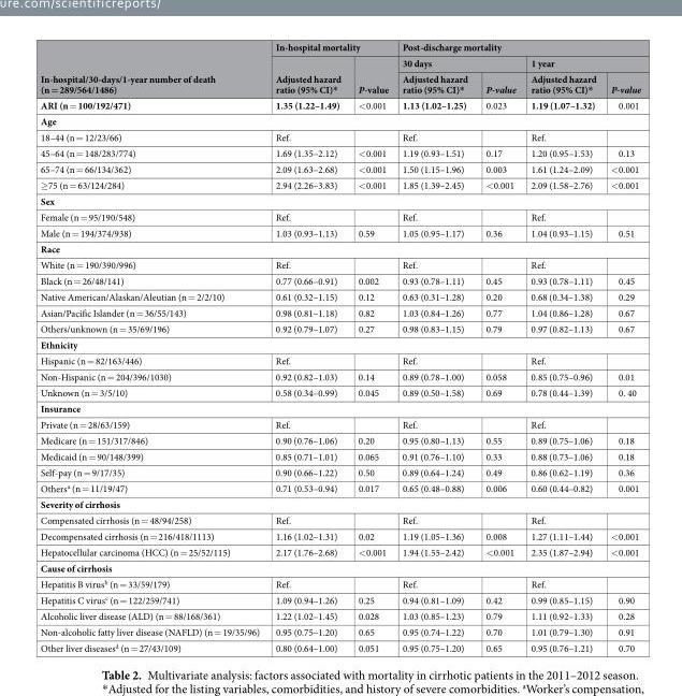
<table><thead><tr><td rowspan="3">In-hospital/30-days/1-year number of death (n = 289/564/1486)</td><td colspan="2">In-hospital mortality</td><td colspan="4">Post-discharge mortality</td></tr><tr><td rowspan="2">Adjusted hazard ratio (95% CI)*</td><td rowspan="2">P-value</td><td colspan="2">30 days</td><td colspan="2">1 year</td></tr><tr><td>Adjusted hazard ratio (95% CI)*</td><td>P-value</td><td>Adjusted hazard ratio (95% CI)*</td><td>P-value</td></tr></thead><tbody><tr><td>ARI (n = 100/192/471)</td><td>1.35 (1.22–1.49)</td><td>&lt;0.001</td><td>1.13 (1.02–1.25)</td><td>0.023</td><td>1.19 (1.07–1.32)</td><td>0.001</td></tr><tr><td colspan="7">Age</td></tr><tr><td>18–44 (n = 12/23/66)</td><td>Ref.</td><td></td><td>Ref.</td><td></td><td>Ref.</td><td></td></tr><tr><td>45–64 (n = 148/283/774)</td><td>1.69 (1.35–2.12)</td><td>&lt;0.001</td><td>1.19 (0.93–1.51)</td><td>0.17</td><td>1.20 (0.95–1.53)</td><td>0.13</td></tr><tr><td>65–74 (n = 66/134/362)</td><td>2.09 (1.63–2.68)</td><td>&lt;0.001</td><td>1.50 (1.15–1.96)</td><td>0.003</td><td>1.61 (1.24–2.09)</td><td>&lt;0.001</td></tr><tr><td>≥75 (n = 63/124/284)</td><td>2.94 (2.26–3.83)</td><td>&lt;0.001</td><td>1.85 (1.39–2.45)</td><td>&lt;0.001</td><td>2.09 (1.58–2.76)</td><td>&lt;0.001</td></tr><tr><td colspan="7">Sex</td></tr><tr><td>Female (n = 95/190/548)</td><td>Ref.</td><td></td><td>Ref.</td><td></td><td>Ref.</td><td></td></tr><tr><td>Male (n = 194/374/938)</td><td>1.03 (0.93–1.13)</td><td>0.59</td><td>1.05 (0.95–1.17)</td><td>0.36</td><td>1.04 (0.93–1.15)</td><td>0.51</td></tr><tr><td colspan="7">Race</td></tr><tr><td>White (n = 190/390/996)</td><td>Ref.</td><td></td><td>Ref.</td><td></td><td>Ref.</td><td></td></tr><tr><td>Black (n = 26/48/141)</td><td>0.77 (0.66–0.91)</td><td>0.002</td><td>0.93 (0.78–1.11)</td><td>0.45</td><td>0.93 (0.78–1.11)</td><td>0.45</td></tr><tr><td>Native American/Alaskan/Aleutian (n = 2/2/10)</td><td>0.61 (0.32–1.15)</td><td>0.12</td><td>0.63 (0.31–1.28)</td><td>0.20</td><td>0.68 (0.34–1.38)</td><td>0.29</td></tr><tr><td>Asian/Pacific Islander (n = 36/55/143)</td><td>0.98 (0.81–1.18)</td><td>0.82</td><td>1.03 (0.84–1.26)</td><td>0.77</td><td>1.04 (0.86–1.28)</td><td>0.67</td></tr><tr><td>Others/unknown (n = 35/69/196)</td><td>0.92 (0.79–1.07)</td><td>0.27</td><td>0.98 (0.83–1.15)</td><td>0.79</td><td>0.97 (0.82–1.13)</td><td>0.67</td></tr><tr><td colspan="7">Ethnicity</td></tr><tr><td>Hispanic (n = 82/163/446)</td><td>Ref.</td><td></td><td>Ref.</td><td></td><td>Ref.</td><td></td></tr><tr><td>Non-Hispanic (n = 204/396/1030)</td><td>0.92 (0.82–1.03)</td><td>0.14</td><td>0.89 (0.78–1.00)</td><td>0.058</td><td>0.85 (0.75–0.96)</td><td>0.01</td></tr><tr><td>Unknown (n = 3/5/10)</td><td>0.58 (0.34–0.99)</td><td>0.045</td><td>0.89 (0.50–1.58)</td><td>0.69</td><td>0.78 (0.44–1.39)</td><td>0. 40</td></tr><tr><td colspan="7">Insurance</td></tr><tr><td>Private (n = 28/63/159)</td><td>Ref.</td><td></td><td>Ref.</td><td></td><td>Ref.</td><td></td></tr><tr><td>Medicare (n = 151/317/846)</td><td>0.90 (0.76–1.06)</td><td>0.20</td><td>0.95 (0.80–1.13)</td><td>0.55</td><td>0.89 (0.75–1.06)</td><td>0.18</td></tr><tr><td>Medicaid (n = 90/148/399)</td><td>0.85 (0.71–1.01)</td><td>0.065</td><td>0.91 (0.76–1.10)</td><td>0.33</td><td>0.88 (0.73–1.06)</td><td>0.18</td></tr><tr><td>Self-pay (n = 9/17/35)</td><td>0.90 (0.66–1.22)</td><td>0.50</td><td>0.89 (0.64–1.24)</td><td>0.49</td><td>0.86 (0.62–1.19)</td><td>0.36</td></tr><tr><td>Others<sup>a</sup> (n = 11/19/47)</td><td>0.71 (0.53–0.94)</td><td>0.017</td><td>0.65 (0.48–0.88)</td><td>0.006</td><td>0.60 (0.44–0.82)</td><td>0.001</td></tr><tr><td colspan="7">Severity of cirrhosis</td></tr><tr><td>Compensated cirrhosis (n = 48/94/258)</td><td>Ref.</td><td></td><td>Ref.</td><td></td><td>Ref.</td><td></td></tr><tr><td>Decompensated cirrhosis (n = 216/418/1113)</td><td>1.16 (1.02–1.31)</td><td>0.02</td><td>1.19 (1.05–1.36)</td><td>0.008</td><td>1.27 (1.11–1.44)</td><td>&lt;0.001</td></tr><tr><td>Hepatocellular carcinoma (HCC) (n = 25/52/115)</td><td>2.17 (1.76–2.68)</td><td>&lt;0.001</td><td>1.94 (1.55–2.42)</td><td>&lt;0.001</td><td>2.35 (1.87–2.94)</td><td>&lt;0.001</td></tr><tr><td colspan="7">Cause of cirrhosis</td></tr><tr><td>Hepatitis B virus<sup>b</sup> (n = 33/59/179)</td><td>Ref.</td><td></td><td>Ref.</td><td></td><td>Ref.</td><td></td></tr><tr><td>Hepatitis C virus<sup>c</sup> (n = 122/259/741)</td><td>1.09 (0.94–1.26)</td><td>0.25</td><td>0.94 (0.81–1.09)</td><td>0.42</td><td>0.99 (0.85–1.15)</td><td>0.90</td></tr><tr><td>Alcoholic liver disease (ALD) (n = 88/168/361)</td><td>1.22 (1.02–1.45)</td><td>0.028</td><td>1.03 (0.85–1.23)</td><td>0.79</td><td>1.11 (0.92–1.33)</td><td>0.28</td></tr><tr><td>Non-alcoholic fatty liver disease (NAFLD) (n = 19/35/96)</td><td>0.95 (0.75–1.20)</td><td>0.65</td><td>0.95 (0.74–1.22)</td><td>0.70</td><td>1.01 (0.79–1.30)</td><td>0.91</td></tr><tr><td>Other liver diseases<sup>d</sup> (n = 27/43/109)</td><td>0.80 (0.64–1.00)</td><td>0.051</td><td>0.95 (0.75–1.20)</td><td>0.65</td><td>0.95 (0.76–1.21)</td><td>0.70</td></tr></tbody></table>